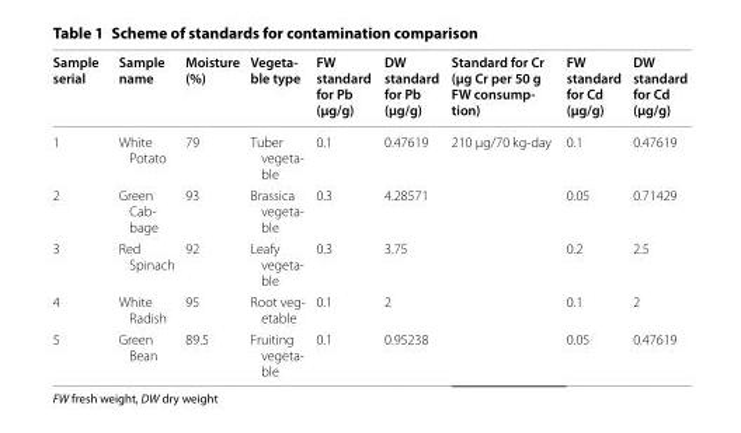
<table><thead><tr><td>Sample serial</td><td>Sample name</td><td>Moisture (%)</td><td>Vegeta- ble type</td><td>FW standard for Pb (µg/g)</td><td>DW standard for Pb (µg/g)</td><td>Standard for Cr (µg Cr per 50 g FW consump- tion)</td><td>FW standard for Cd (µg/g)</td><td>DW standard for Cd (µg/g)</td></tr></thead><tbody><tr><td>1</td><td>White Potato</td><td>79</td><td>Tuber vegeta‑ ble</td><td>0.1</td><td>0.47619</td><td rowspan="5">210 μg/70 kg‑day</td><td>0.1</td><td>0.47619</td></tr><tr><td>2</td><td>Green Cab‑ bage</td><td>93</td><td>Brassica vegeta‑ ble</td><td>0.3</td><td>4.28571</td><td>0.05</td><td>0.71429</td></tr><tr><td>3</td><td>Red Spinach</td><td>92</td><td>Leafy vegeta‑ ble</td><td>0.3</td><td>3.75</td><td>0.2</td><td>2.5</td></tr><tr><td>4</td><td>White Radish</td><td>95</td><td>Root veg‑ etable</td><td>0.1</td><td>2</td><td>0.1</td><td>2</td></tr><tr><td>5</td><td>Green Bean</td><td>89.5</td><td>Fruiting vegeta‑ ble</td><td>0.1</td><td>0.95238</td><td>0.05</td><td>0.47619</td></tr></tbody></table>